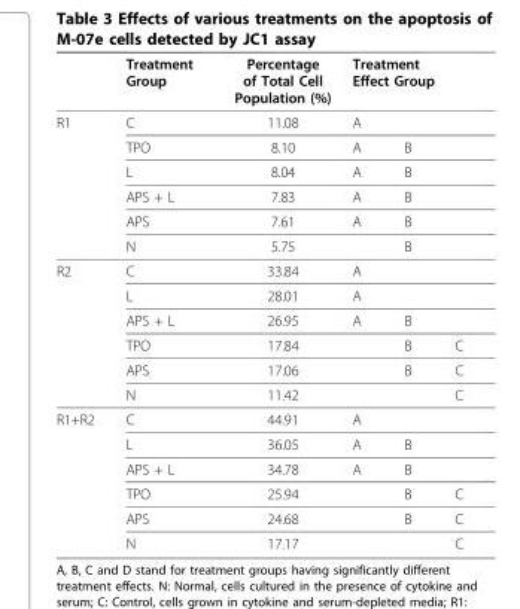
<table><thead><tr><td rowspan="2">R1</td><td rowspan="2">Treatment Group C</td><td rowspan="2">Percentage of Total Cell Population (%) 11.08</td><td colspan="3">Treatment Effect Group</td></tr><tr><td>A</td><td></td><td></td></tr></thead><tbody><tr><td></td><td>TPO</td><td>8.10</td><td>A</td><td>B</td><td></td></tr><tr><td></td><td>L</td><td>8.04</td><td>A</td><td>B</td><td></td></tr><tr><td></td><td>APS + L</td><td>7.83</td><td>A</td><td>B</td><td></td></tr><tr><td></td><td>APS</td><td>7.61</td><td>A</td><td>B</td><td></td></tr><tr><td></td><td>N</td><td>5.75</td><td></td><td>B</td><td></td></tr><tr><td rowspan="6">R2</td><td>C</td><td>33.84</td><td>A</td><td></td><td></td></tr><tr><td>L</td><td>28.01</td><td>A</td><td></td><td></td></tr><tr><td>APS + L</td><td>26.95</td><td>A</td><td>B</td><td></td></tr><tr><td>TPO</td><td>17.84</td><td></td><td>B</td><td>C</td></tr><tr><td>APS</td><td>17.06</td><td></td><td>B</td><td>C</td></tr><tr><td>N</td><td>11.42</td><td></td><td></td><td>C</td></tr><tr><td rowspan="6">R1+R2</td><td>C</td><td>44.91</td><td>A</td><td></td><td></td></tr><tr><td>L</td><td>36.05</td><td>A</td><td>B</td><td></td></tr><tr><td>APS + L</td><td>34.78</td><td>A</td><td>B</td><td></td></tr><tr><td>TPO</td><td>25.94</td><td></td><td>B</td><td>C</td></tr><tr><td>APS</td><td>24.68</td><td></td><td>B</td><td>C</td></tr><tr><td>N</td><td>17.17</td><td></td><td></td><td>C</td></tr></tbody></table>